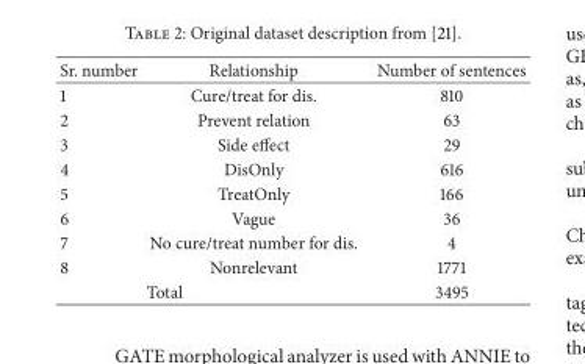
<table><thead><tr><td>Sr. number</td><td>Relationship</td><td>Number of sentences</td></tr></thead><tbody><tr><td>1</td><td>Cure/treat for dis.</td><td>810</td></tr><tr><td>2</td><td>Prevent relation</td><td>63</td></tr><tr><td>3</td><td>Side effect</td><td>29</td></tr><tr><td>4</td><td>DisOnly</td><td>616</td></tr><tr><td>5</td><td>TreatOnly</td><td>166</td></tr><tr><td>6</td><td>Vague</td><td>36</td></tr><tr><td>7</td><td>No cure/treat number for dis.</td><td>4</td></tr><tr><td>8</td><td>Nonrelevant</td><td>1771</td></tr><tr><td colspan="2">Total</td><td>3495</td></tr></tbody></table>